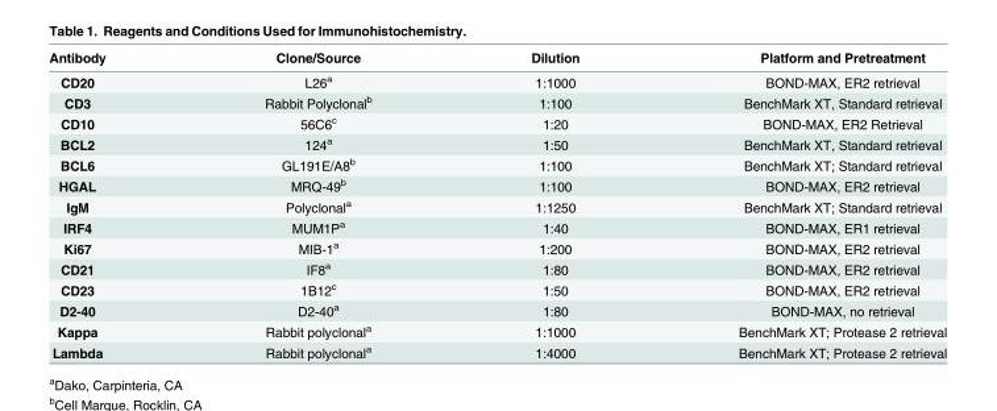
<table><thead><tr><td>Antibody</td><td>Clone/Source</td><td>Dilution</td><td>Platform and Pretreatment</td></tr></thead><tbody><tr><td>CD20</td><td>L26<sup>a</sup></td><td>1:1000</td><td>BOND-MAX, ER2 retrieval</td></tr><tr><td>CD3</td><td>Rabbit Polyclonal<sup>b</sup></td><td>1:100</td><td>BenchMark XT, Standard retrieval</td></tr><tr><td>CD10</td><td>56C6<sup>c</sup></td><td>1:20</td><td>BOND-MAX, ER2 Retrieval</td></tr><tr><td>BCL2</td><td>124<sup>a</sup></td><td>1:50</td><td>BenchMark XT, Standard retrieval</td></tr><tr><td>BCL6</td><td>GL191E/A8<sup>b</sup></td><td>1:100</td><td>BenchMark XT; Standard retrieval</td></tr><tr><td>HGAL</td><td>MRQ-49<sup>b</sup></td><td>1:100</td><td>BOND-MAX, ER2 retrieval</td></tr><tr><td>IgM</td><td>Polyclonal<sup>a</sup></td><td>1:1250</td><td>BenchMark XT; Standard retrieval</td></tr><tr><td>IRF4</td><td>MUM1P<sup>a</sup></td><td>1:40</td><td>BOND-MAX, ER1 retrieval</td></tr><tr><td>Ki67</td><td>MIB-1<sup>a</sup></td><td>1:200</td><td>BOND-MAX, ER2 retrieval</td></tr><tr><td>CD21</td><td>IF8<sup>a</sup></td><td>1:80</td><td>BOND-MAX, ER2 retrieval</td></tr><tr><td>CD23</td><td>1B12<sup>c</sup></td><td>1:50</td><td>BOND-MAX, ER2 retrieval</td></tr><tr><td>D2-40</td><td>D2-40<sup>a</sup></td><td>1:80</td><td>BOND-MAX, no retrieval</td></tr><tr><td>Kappa</td><td>Rabbit polyclonal<sup>a</sup></td><td>1:1000</td><td>BenchMark XT; Protease 2 retrieval</td></tr><tr><td>Lambda</td><td>Rabbit polyclonal<sup>a</sup></td><td>1:4000</td><td>BenchMark XT; Protease 2 retrieval</td></tr></tbody></table>